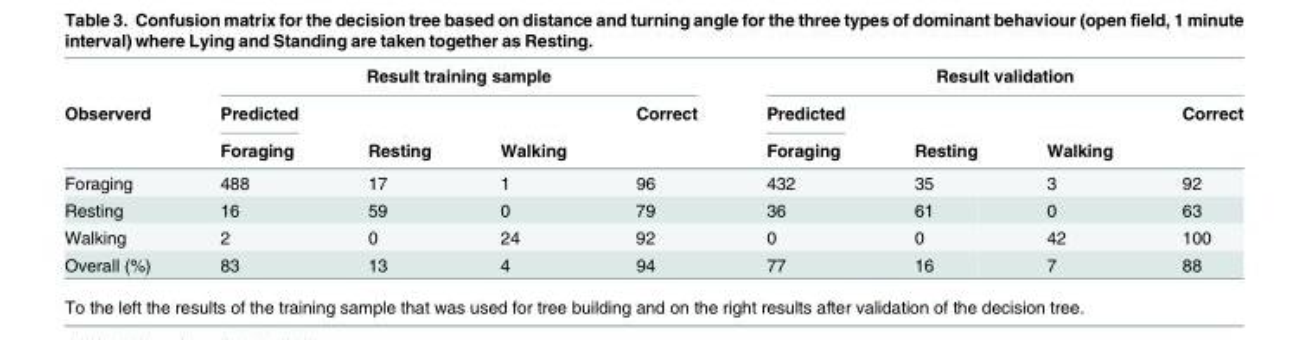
<table><thead><tr><td rowspan="3">Observerd</td><td colspan="4">Result training sample</td><td colspan="4">Result validation</td></tr><tr><td rowspan="2">Predicted Foraging</td><td rowspan="2">Resting</td><td rowspan="2">Walking</td><td rowspan="2">Correct</td><td rowspan="2">Predicted Foraging</td><td rowspan="2">Resting</td><td rowspan="2">Walking</td><td rowspan="2">Correct</td></tr><tr></tr></thead><tbody><tr><td>Foraging</td><td>488</td><td>17</td><td>1</td><td>96</td><td>432</td><td>35</td><td>3</td><td>92</td></tr><tr><td>Resting</td><td>16</td><td>59</td><td>0</td><td>79</td><td>36</td><td>61</td><td>0</td><td>63</td></tr><tr><td>Walking</td><td>2</td><td>0</td><td>24</td><td>92</td><td>0</td><td>0</td><td>42</td><td>100</td></tr><tr><td>Overall (%)</td><td>83</td><td>13</td><td>4</td><td>94</td><td>77</td><td>16</td><td>7</td><td>88</td></tr></tbody></table>